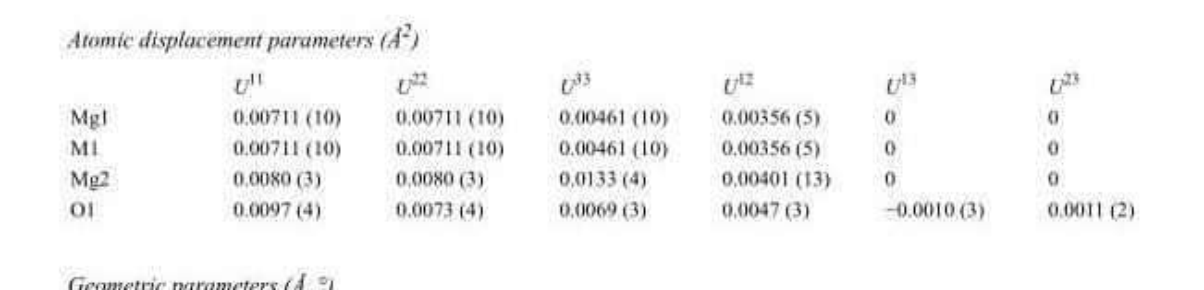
<table><thead><tr><td></td><td>U<sup>11</sup></td><td>U<sup>22</sup></td><td>U<sup>33</sup></td><td>U<sup>12</sup></td><td>U<sup>13</sup></td><td>U<sup>23</sup></td></tr></thead><tbody><tr><td>Mg1</td><td>0.00711 (10)</td><td>0.00711 (10)</td><td>0.00461 (10)</td><td>0.00356 (5)</td><td>0</td><td>0</td></tr><tr><td>M1</td><td>0.00711 (10)</td><td>0.00711 (10)</td><td>0.00461 (10)</td><td>0.00356 (5)</td><td>0</td><td>0</td></tr><tr><td>Mg2</td><td>0.0080 (3)</td><td>0.0080 (3)</td><td>0.0133 (4)</td><td>0.00401 (13)</td><td>0</td><td>0</td></tr><tr><td>O1</td><td>0.0097 (4)</td><td>0.0073 (4)</td><td>0.0069 (3)</td><td>0.0047 (3)</td><td>−0.0010 (3)</td><td>0.0011 (2)</td></tr></tbody></table>